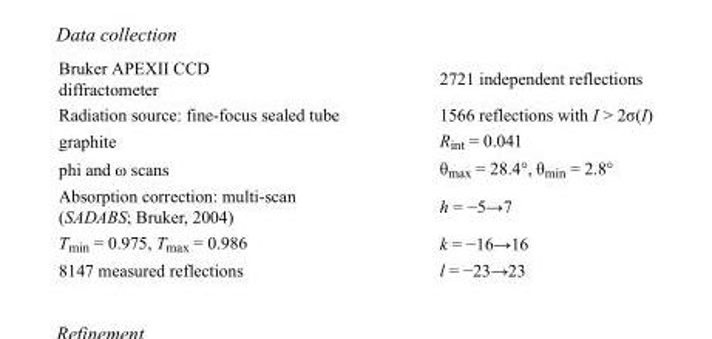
<table><tbody><tr><td>Bruker APEXII CCD diffractometer</td><td>2721 independent reflections</td></tr><tr><td>Radiation source: fine-focus sealed tube</td><td>1566 reflections with I &gt; 2σ(I)</td></tr><tr><td>graphite</td><td>R<sub>int</sub> = 0.041</td></tr><tr><td>phi and ω scans</td><td>θ<sub>max</sub> = 28.4°, θ<sub>min</sub> = 2.8°</td></tr><tr><td>Absorption correction: multi-scan (SADABS; Bruker, 2004)</td><td>h = −5→7</td></tr><tr><td>T<sub>min</sub> = 0.975, T<sub>max</sub> = 0.986</td><td>k = −16→16</td></tr><tr><td>8147 measured reflections</td><td>l = −23→23</td></tr></tbody></table>